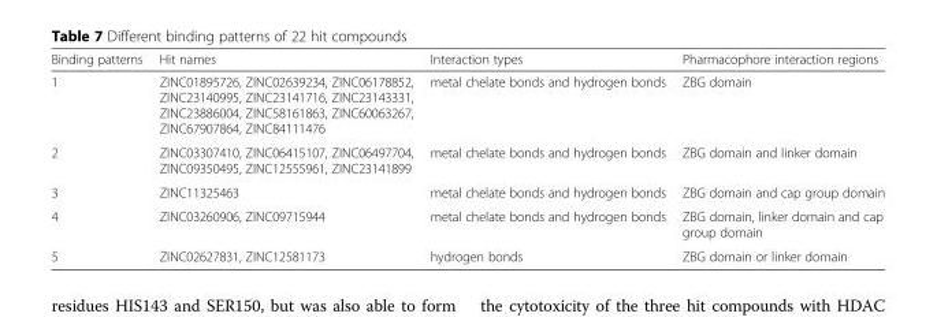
<table><thead><tr><td>Binding patterns</td><td>Hit names</td><td>Interaction types</td><td>Pharmacophore interaction regions</td></tr></thead><tbody><tr><td>1</td><td>ZINC01895726, ZINC02639234, ZINC06178852, ZINC23140995, ZINC23141716, ZINC23143331, ZINC23886004, ZINC58161863, ZINC60063267, ZINC67907864, ZINC84111476</td><td>metal chelate bonds and hydrogen bonds</td><td>ZBG domain</td></tr><tr><td>2</td><td>ZINC03307410, ZINC06415107, ZINC06497704, ZINC09350495, ZINC12555961, ZINC23141899</td><td>metal chelate bonds and hydrogen bonds</td><td>ZBG domain and linker domain</td></tr><tr><td>3</td><td>ZINC11325463</td><td>metal chelate bonds and hydrogen bonds</td><td>ZBG domain and cap group domain</td></tr><tr><td>4</td><td>ZINC03260906, ZINC09715944</td><td>metal chelate bonds and hydrogen bonds</td><td>ZBG domain, linker domain and cap group domain</td></tr><tr><td>5</td><td>ZINC02627831, ZINC12581173</td><td>hydrogen bonds</td><td>ZBG domain or linker domain</td></tr></tbody></table>